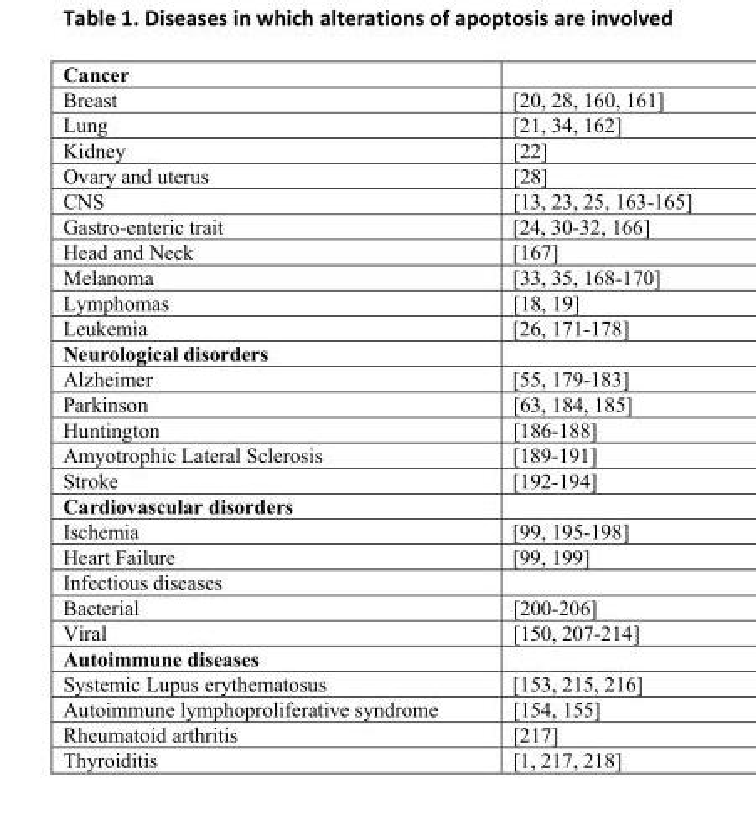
<table><tbody><tr><td colspan="2">Cancer</td></tr><tr><td>Breast</td><td>[20, 28, 160, 161]</td></tr><tr><td>Lung</td><td>[21, 34, 162]</td></tr><tr><td>Kidney</td><td>[22]</td></tr><tr><td>Ovary and uterus</td><td>[28]</td></tr><tr><td>CNS</td><td>[13, 23, 25, 163-165]</td></tr><tr><td>Gastro-enteric trait</td><td>[24, 30-32, 166]</td></tr><tr><td>Head and Neck</td><td>[167]</td></tr><tr><td>Melanoma</td><td>[33, 35, 168-170]</td></tr><tr><td>Lymphomas</td><td>[18, 19]</td></tr><tr><td>Leukemia</td><td>[26, 171-178]</td></tr><tr><td colspan="2">Neurological disorders</td></tr><tr><td>Alzheimer</td><td>[55, 179-183]</td></tr><tr><td>Parkinson</td><td>[63, 184, 185]</td></tr><tr><td>Huntington</td><td>[186-188]</td></tr><tr><td>Amyotrophic Lateral Sclerosis</td><td>[189-191]</td></tr><tr><td>Stroke</td><td>[192-194]</td></tr><tr><td colspan="2">Cardiovascular disorders</td></tr><tr><td>Ischemia</td><td>[99, 195-198]</td></tr><tr><td>Heart Failure</td><td>[99, 199]</td></tr><tr><td colspan="2">Infectious diseases</td></tr><tr><td>Bacterial</td><td>[200-206]</td></tr><tr><td>Viral</td><td>[150, 207-214]</td></tr><tr><td colspan="2">Autoimmune diseases</td></tr><tr><td>Systemic Lupus erythematosus</td><td>[153, 215, 216]</td></tr><tr><td>Autoimmune lymphoproliferative syndrome</td><td>[154, 155]</td></tr><tr><td>Rheumatoid arthritis</td><td>[217]</td></tr><tr><td>Thyroiditis</td><td>[1, 217, 218]</td></tr></tbody></table>